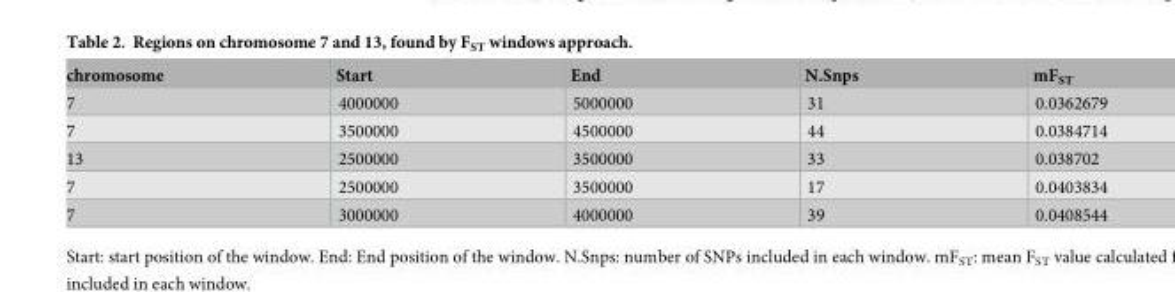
<table><thead><tr><td>chromosome</td><td>Start</td><td>End</td><td>N.Snps</td><td>mF<sub>ST</sub></td></tr></thead><tbody><tr><td>7</td><td>4000000</td><td>5000000</td><td>31</td><td>0.0362679</td></tr><tr><td>7</td><td>3500000</td><td>4500000</td><td>44</td><td>0.0384714</td></tr><tr><td>13</td><td>2500000</td><td>3500000</td><td>33</td><td>0.038702</td></tr><tr><td>7</td><td>2500000</td><td>3500000</td><td>17</td><td>0.0403834</td></tr><tr><td>7</td><td>3000000</td><td>4000000</td><td>39</td><td>0.0408544</td></tr></tbody></table>